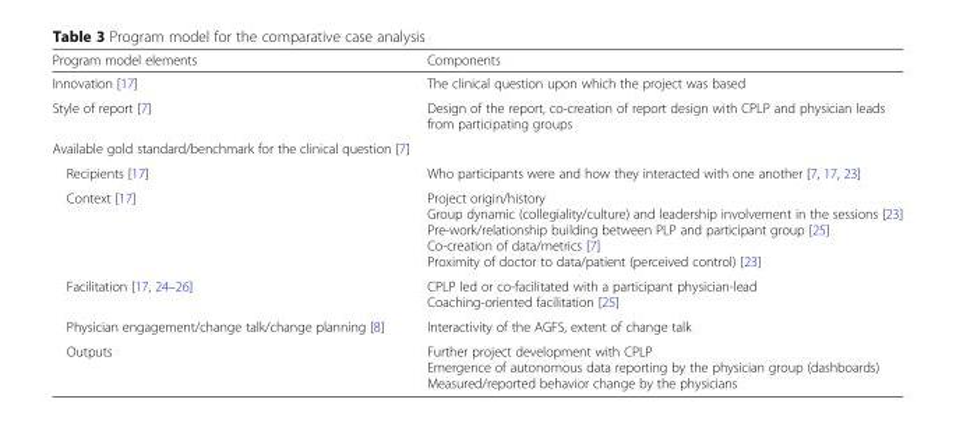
<table><thead><tr><td>Program model elements</td><td>Components</td></tr></thead><tbody><tr><td>Innovation [17]</td><td>The clinical question upon which the project was based</td></tr><tr><td>Style of report [7]</td><td>Design of the report, co-creation of report design with CPLP and physician leads from participating groups</td></tr><tr><td colspan="2">Available gold standard/benchmark for the clinical question [7]</td></tr><tr><td>Recipients [17]</td><td>Who participants were and how they interacted with one another [7, 17, 23]</td></tr><tr><td>Context [17]</td><td>Project origin/history Group dynamic (collegiality/culture) and leadership involvement in the sessions [23] Pre-work/relationship building between PLP and participant group [25] Co-creation of data/metrics [7] Proximity of doctor to data/patient (perceived control) [23]</td></tr><tr><td>Facilitation [17, 24–26]</td><td>CPLP led or co-facilitated with a participant physician-lead Coaching-oriented facilitation [25]</td></tr><tr><td>Physician engagement/change talk/change planning [8]</td><td>Interactivity of the AGFS, extent of change talk</td></tr><tr><td>Outputs</td><td>Further project development with CPLP Emergence of autonomous data reporting by the physician group (dashboards) Measured/reported behavior change by the physicians</td></tr></tbody></table>